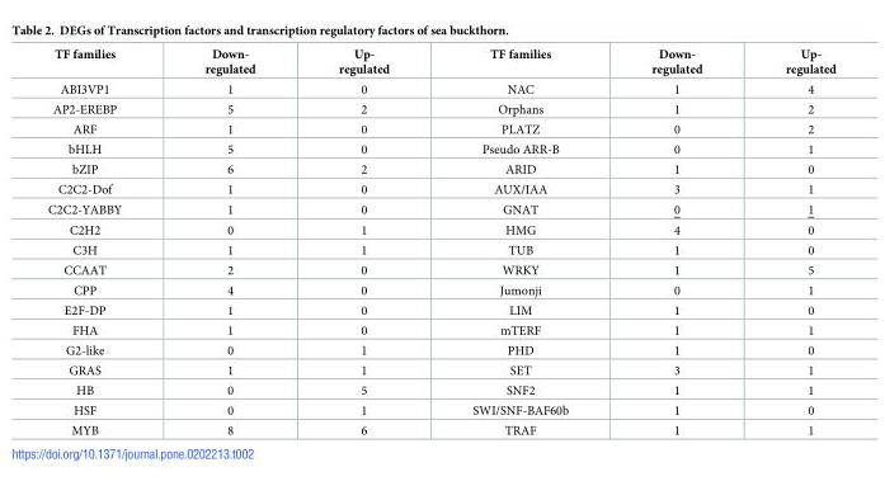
<table><thead><tr><td>TF families</td><td>Down- regulated</td><td>Up- regulated</td><td>TF families</td><td>Down- regulated</td><td>Up- regulated</td></tr></thead><tbody><tr><td>ABI3VP1</td><td>1</td><td>0</td><td>NAC</td><td>1</td><td>4</td></tr><tr><td>AP2-EREBP</td><td>5</td><td>2</td><td>Orphans</td><td>1</td><td>2</td></tr><tr><td>ARF</td><td>1</td><td>0</td><td>PLATZ</td><td>0</td><td>2</td></tr><tr><td>bHLH</td><td>5</td><td>0</td><td>Pseudo ARR-B</td><td>0</td><td>1</td></tr><tr><td>bZIP</td><td>6</td><td>2</td><td>ARID</td><td>1</td><td>0</td></tr><tr><td>C2C2-Dof</td><td>1</td><td>0</td><td>AUX/IAA</td><td>3</td><td>1</td></tr><tr><td>C2C2-YABBY</td><td>1</td><td>0</td><td>GNAT</td><td>0</td><td>1</td></tr><tr><td>C2H2</td><td>0</td><td>1</td><td>HMG</td><td>4</td><td>0</td></tr><tr><td>C3H</td><td>1</td><td>1</td><td>TUB</td><td>1</td><td>0</td></tr><tr><td>CCAAT</td><td>2</td><td>0</td><td>WRKY</td><td>1</td><td>5</td></tr><tr><td>CPP</td><td>4</td><td>0</td><td>Jumonji</td><td>0</td><td>1</td></tr><tr><td>E2F-DP</td><td>1</td><td>0</td><td>LIM</td><td>1</td><td>0</td></tr><tr><td>FHA</td><td>1</td><td>0</td><td>mTERF</td><td>1</td><td>1</td></tr><tr><td>G2-like</td><td>0</td><td>1</td><td>PHD</td><td>1</td><td>0</td></tr><tr><td>GRAS</td><td>1</td><td>1</td><td>SET</td><td>3</td><td>1</td></tr><tr><td>HB</td><td>0</td><td>5</td><td>SNF2</td><td>1</td><td>1</td></tr><tr><td>HSF</td><td>0</td><td>1</td><td>SWI/SNF-BAF60b</td><td>1</td><td>0</td></tr><tr><td>MYB</td><td>8</td><td>6</td><td>TRAF</td><td>1</td><td>1</td></tr></tbody></table>